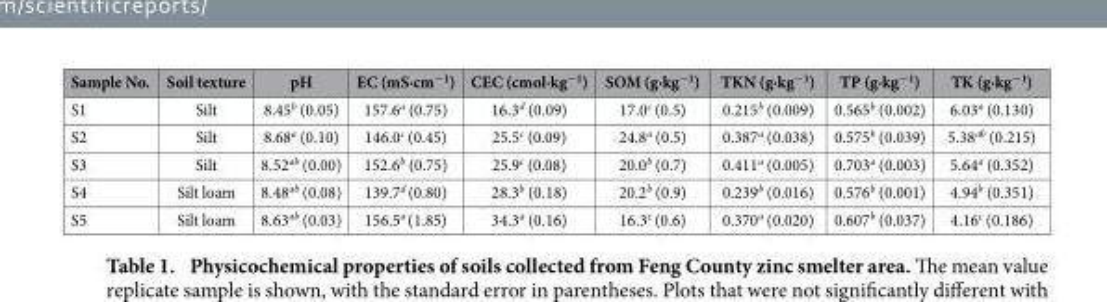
<table><thead><tr><td>Sample No.</td><td>Soil texture</td><td>pH</td><td>EC (mS·cm<sup>−1</sup>)</td><td>CEC (cmol·kg<sup>−1</sup>)</td><td>SOM (g·kg<sup>−1</sup>)</td><td>TKN (g·kg<sup>−1</sup>)</td><td>TP (g·kg<sup>−1</sup>)</td><td>TK (g·kg<sup>−1</sup>)</td></tr></thead><tbody><tr><td>S1</td><td>Silt</td><td>8.45<sup>b</sup> (0.05)</td><td>157.6<sup>a</sup> (0.75)</td><td>16.3<sup>d</sup> (0.09)</td><td>17.0<sup>c</sup> (0.5)</td><td>0.215<sup>b</sup> (0.009)</td><td>0.565<sup>b</sup> (0.002)</td><td>6.03<sup>a</sup> (0.130)</td></tr><tr><td>S2</td><td>Silt</td><td>8.68<sup>a</sup> (0.10)</td><td>146.0<sup>c</sup> (0.45)</td><td>25.5<sup>c</sup> (0.09)</td><td>24.8<sup>a</sup> (0.5)</td><td>0.387<sup>a</sup> (0.038)</td><td>0.575<sup>b</sup> (0.039)</td><td>5.38<sup>ab</sup> (0.215)</td></tr><tr><td>S3</td><td>Silt</td><td>8.52<sup>ab</sup> (0.00)</td><td>152.6<sup>b</sup> (0.75)</td><td>25.9<sup>c</sup> (0.08)</td><td>20.0<sup>b</sup> (0.7)</td><td>0.411<sup>a</sup> (0.005)</td><td>0.703<sup>a</sup> (0.003)</td><td>5.64<sup>a</sup> (0.352)</td></tr><tr><td>S4</td><td>Silt loam</td><td>8.48<sup>ab</sup> (0.08)</td><td>139.7<sup>d</sup> (0.80)</td><td>28.3<sup>b</sup> (0.18)</td><td>20.2<sup>b</sup> (0.9)</td><td>0.239<sup>b</sup> (0.016)</td><td>0.576<sup>b</sup> (0.001)</td><td>4.94<sup>b</sup> (0.351)</td></tr><tr><td>S5</td><td>Silt loam</td><td>8.63<sup>ab</sup> (0.03)</td><td>156.5<sup>a</sup> (1.85)</td><td>34.3<sup>a</sup> (0.16)</td><td>16.3<sup>c</sup> (0.6)</td><td>0.370<sup>a</sup> (0.020)</td><td>0.607<sup>b</sup> (0.037)</td><td>4.16<sup>c</sup> (0.186)</td></tr></tbody></table>